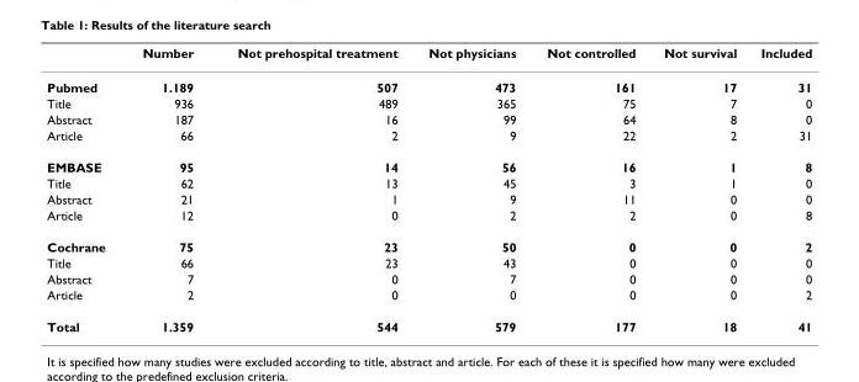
<table><thead><tr><td></td><td>Number</td><td>Not prehospital treatment</td><td>Not physicians</td><td>Not controlled</td><td>Not survival</td><td>Included</td></tr></thead><tbody><tr><td>Pubmed</td><td>1.189</td><td>507</td><td>473</td><td>161</td><td>17</td><td>31</td></tr><tr><td>Title</td><td>936</td><td>489</td><td>365</td><td>75</td><td>7</td><td>0</td></tr><tr><td>Abstract</td><td>187</td><td>16</td><td>99</td><td>64</td><td>8</td><td>0</td></tr><tr><td>Article</td><td>66</td><td>2</td><td>9</td><td>22</td><td>2</td><td>31</td></tr><tr><td>EMBASE</td><td>95</td><td>14</td><td>56</td><td>16</td><td>1</td><td>8</td></tr><tr><td>Title</td><td>62</td><td>13</td><td>45</td><td>3</td><td>1</td><td>0</td></tr><tr><td>Abstract</td><td>21</td><td>1</td><td>9</td><td>11</td><td>0</td><td>0</td></tr><tr><td>Article</td><td>12</td><td>0</td><td>2</td><td>2</td><td>0</td><td>8</td></tr><tr><td>Cochrane</td><td>75</td><td>23</td><td>50</td><td>0</td><td>0</td><td>2</td></tr><tr><td>Title</td><td>66</td><td>23</td><td>43</td><td>0</td><td>0</td><td>0</td></tr><tr><td>Abstract</td><td>7</td><td>0</td><td>7</td><td>0</td><td>0</td><td>0</td></tr><tr><td>Article</td><td>2</td><td>0</td><td>0</td><td>0</td><td>0</td><td>2</td></tr><tr><td>Total</td><td>1.359</td><td>544</td><td>579</td><td>177</td><td>18</td><td>41</td></tr></tbody></table>